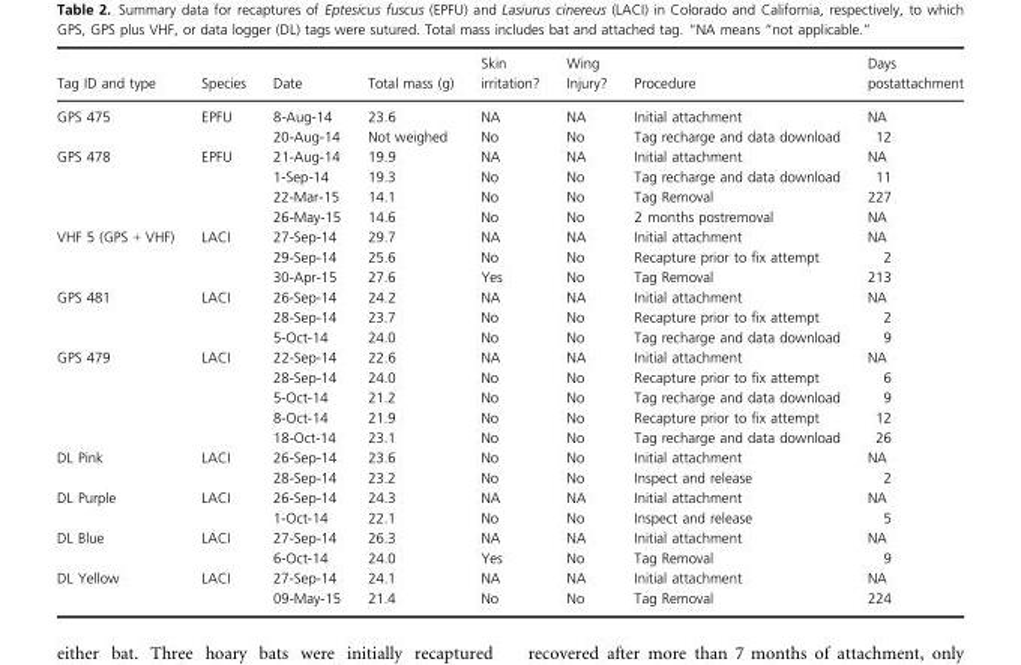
<table><thead><tr><td>Tag ID and type</td><td>Species</td><td>Date</td><td>Total mass (g)</td><td>Skin irritation?</td><td>Wing Injury?</td><td>Procedure</td><td>Days postattachment</td></tr></thead><tbody><tr><td rowspan="2">GPS 475</td><td rowspan="2">EPFU</td><td>8-Aug-14</td><td>23.6</td><td>NA</td><td>NA</td><td>Initial attachment</td><td>NA</td></tr><tr><td>20-Aug-14</td><td>Not weighed</td><td>No</td><td>No</td><td>Tag recharge and data download</td><td>12</td></tr><tr><td rowspan="4">GPS 478</td><td rowspan="4">EPFU</td><td>21-Aug-14</td><td>19.9</td><td>NA</td><td>NA</td><td>Initial attachment</td><td>NA</td></tr><tr><td>1-Sep-14</td><td>19.3</td><td>No</td><td>No</td><td>Tag recharge and data download</td><td>11</td></tr><tr><td>22-Mar-15</td><td>14.1</td><td>No</td><td>No</td><td>Tag Removal</td><td>227</td></tr><tr><td>26-May-15</td><td>14.6</td><td>No</td><td>No</td><td>2 months postremoval</td><td>NA</td></tr><tr><td rowspan="3">VHF 5 (GPS + VHF)</td><td rowspan="3">LACI</td><td>27-Sep-14</td><td>29.7</td><td>NA</td><td>NA</td><td>Initial attachment</td><td>NA</td></tr><tr><td>29-Sep-14</td><td>25.6</td><td>No</td><td>No</td><td>Recapture prior to fix attempt</td><td>2</td></tr><tr><td>30-Apr-15</td><td>27.6</td><td>Yes</td><td>No</td><td>Tag Removal</td><td>213</td></tr><tr><td rowspan="3">GPS 481</td><td rowspan="3">LACI</td><td>26-Sep-14</td><td>24.2</td><td>NA</td><td>NA</td><td>Initial attachment</td><td>NA</td></tr><tr><td>28-Sep-14</td><td>23.7</td><td>No</td><td>No</td><td>Recapture prior to fix attempt</td><td>2</td></tr><tr><td>5-Oct-14</td><td>24.0</td><td>No</td><td>No</td><td>Tag recharge and data download</td><td>9</td></tr><tr><td rowspan="5">GPS 479</td><td rowspan="5">LACI</td><td>22-Sep-14</td><td>22.6</td><td>NA</td><td>NA</td><td>Initial attachment</td><td>NA</td></tr><tr><td>28-Sep-14</td><td>24.0</td><td>No</td><td>No</td><td>Recapture prior to fix attempt</td><td>6</td></tr><tr><td>5-Oct-14</td><td>21.2</td><td>No</td><td>No</td><td>Tag recharge and data download</td><td>9</td></tr><tr><td>8-Oct-14</td><td>21.9</td><td>No</td><td>No</td><td>Recapture prior to fix attempt</td><td>12</td></tr><tr><td>18-Oct-14</td><td>23.1</td><td>No</td><td>No</td><td>Tag recharge and data download</td><td>26</td></tr><tr><td rowspan="2">DL Pink</td><td rowspan="2">LACI</td><td>26-Sep-14</td><td>23.6</td><td>No</td><td>No</td><td>Initial attachment</td><td>NA</td></tr><tr><td>28-Sep-14</td><td>23.2</td><td>No</td><td>No</td><td>Inspect and release</td><td>2</td></tr><tr><td rowspan="2">DL Purple</td><td rowspan="2">LACI</td><td>26-Sep-14</td><td>24.3</td><td>NA</td><td>NA</td><td>Initial attachment</td><td>NA</td></tr><tr><td>1-Oct-14</td><td>22.1</td><td>No</td><td>No</td><td>Inspect and release</td><td>5</td></tr><tr><td rowspan="2">DL Blue</td><td rowspan="2">LACI</td><td>27-Sep-14</td><td>26.3</td><td>NA</td><td>NA</td><td>Initial attachment</td><td>NA</td></tr><tr><td>6-Oct-14</td><td>24.0</td><td>Yes</td><td>No</td><td>Tag Removal</td><td>9</td></tr><tr><td rowspan="2">DL Yellow</td><td rowspan="2">LACI</td><td>27-Sep-14</td><td>24.1</td><td>NA</td><td>NA</td><td>Initial attachment</td><td>NA</td></tr><tr><td>09-May-15</td><td>21.4</td><td>No</td><td>No</td><td>Tag Removal</td><td>224</td></tr></tbody></table>